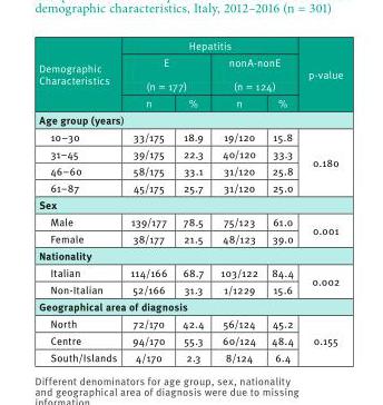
<table><thead><tr><td rowspan="3">Demographic Characteristics</td><td colspan="4">Hepatitis</td><td rowspan="3">p-value</td></tr><tr><td colspan="2">E (n = 177)</td><td colspan="2">nonA-nonE (n = 124)</td></tr><tr><td>n</td><td>%</td><td>n</td><td>%</td></tr></thead><tbody><tr><td colspan="6">Age group (years)</td></tr><tr><td>10–30</td><td>33/175</td><td>18.9</td><td>19/120</td><td>15.8</td><td rowspan="4">0.180</td></tr><tr><td>31–45</td><td>39/175</td><td>22.3</td><td>40/120</td><td>33.3</td></tr><tr><td>46–60</td><td>58/175</td><td>33.1</td><td>31/120</td><td>25.8</td></tr><tr><td>61–87</td><td>45/175</td><td>25.7</td><td>31/120</td><td>25.0</td></tr><tr><td colspan="6">Sex</td></tr><tr><td>Male</td><td>139/177</td><td>78.5</td><td>75/123</td><td>61.0</td><td rowspan="2">0.001</td></tr><tr><td>Female</td><td>38/177</td><td>21.5</td><td>48/123</td><td>39.0</td></tr><tr><td colspan="6">Nationality</td></tr><tr><td>Italian</td><td>114/166</td><td>68.7</td><td>103/122</td><td>84.4</td><td rowspan="2">0.002</td></tr><tr><td>Non-Italian</td><td>52/166</td><td>31.3</td><td>1/1229</td><td>15.6</td></tr><tr><td colspan="6">Geographical area of diagnosis</td></tr><tr><td>North</td><td>72/170</td><td>42.4</td><td>56/124</td><td>45.2</td><td rowspan="3">0.155</td></tr><tr><td>Centre</td><td>94/170</td><td>55.3</td><td>60/124</td><td>48.4</td></tr><tr><td>South/Islands</td><td>4/170</td><td>2.3</td><td>8/124</td><td>6.4</td></tr></tbody></table>